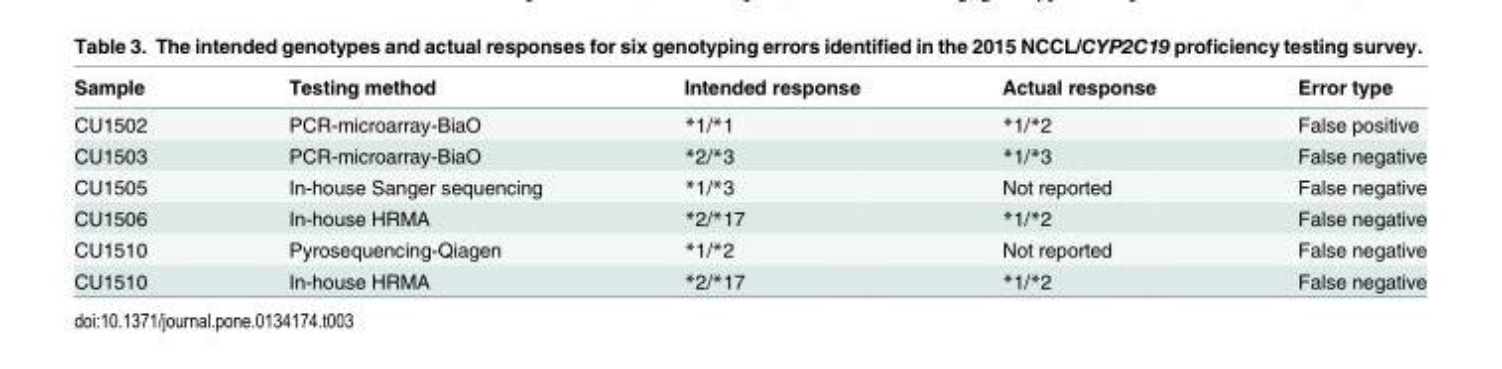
<table><thead><tr><td>Sample</td><td>Testing method</td><td>Intended response</td><td>Actual response</td><td>Error type</td></tr></thead><tbody><tr><td>CU1502</td><td>PCR-microarray-BiaO</td><td>*1/*1</td><td>*1/*2</td><td>False positive</td></tr><tr><td>CU1503</td><td>PCR-microarray-BiaO</td><td>*2/*3</td><td>*1/*3</td><td>False negative</td></tr><tr><td>CU1505</td><td>In-house Sanger sequencing</td><td>*1/*3</td><td>Not reported</td><td>False negative</td></tr><tr><td>CU1506</td><td>In-house HRMA</td><td>*2/*17</td><td>*1/*2</td><td>False negative</td></tr><tr><td>CU1510</td><td>Pyrosequencing-Qiagen</td><td>*1/*2</td><td>Not reported</td><td>False negative</td></tr><tr><td>CU1510</td><td>In-house HRMA</td><td>*2/*17</td><td>*1/*2</td><td>False negative</td></tr></tbody></table>